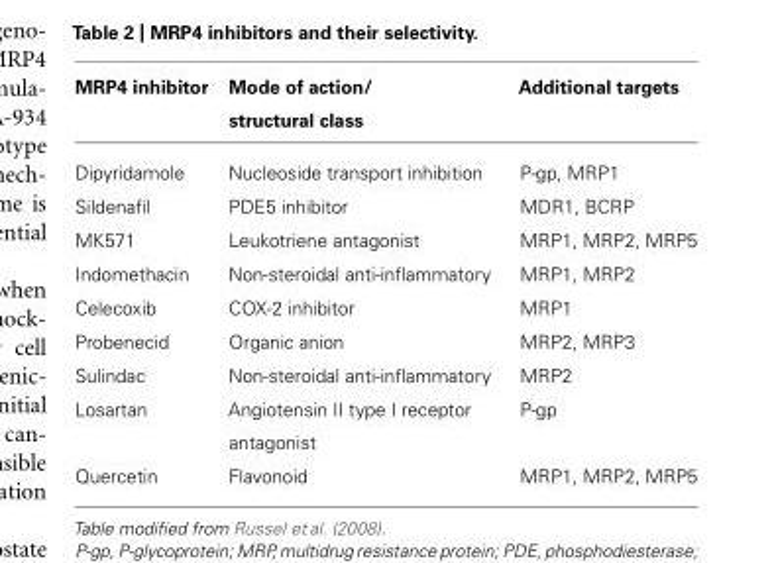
<table><thead><tr><td>MRP4 inhibitor</td><td>Mode of action/ structural class</td><td>Additional targets</td></tr></thead><tbody><tr><td>Dipyridamole</td><td>Nucleoside transport inhibition</td><td>P-gp, MRP1</td></tr><tr><td>Sildenafil</td><td>PDE5 inhibitor</td><td>MDR1, BCRP</td></tr><tr><td>MK571</td><td>Leukotriene antagonist</td><td>MRP1, MRP2, MRP5</td></tr><tr><td>Indomethacin</td><td>Non-steroidal anti-inflammatory</td><td>MRP1, MRP2</td></tr><tr><td>Celecoxib</td><td>COX-2 inhibitor</td><td>MRP1</td></tr><tr><td>Probenecid</td><td>Organic anion</td><td>MRP2, MRP3</td></tr><tr><td>Sulindac</td><td>Non-steroidal anti-inflammatory</td><td>MRP2</td></tr><tr><td>Losartan</td><td>Angiotensin II type I receptor antagonist</td><td>P-gp</td></tr><tr><td>Quercetin</td><td>Flavonoid</td><td>MRP1, MRP2, MRP5</td></tr></tbody></table>